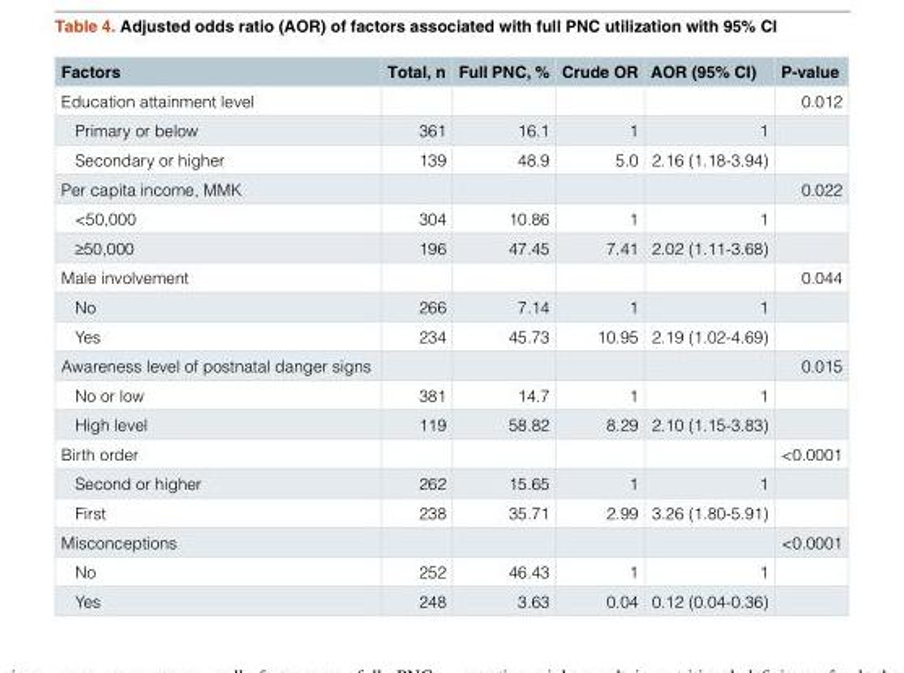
<table><thead><tr><td>Factors</td><td>Total, n</td><td>Full PNC, %</td><td>Crude OR</td><td>AOR (95% CI)</td><td>P-value</td></tr></thead><tbody><tr><td>Education attainment level</td><td></td><td></td><td></td><td></td><td>0.012</td></tr><tr><td>Primary or below</td><td>361</td><td>16.1</td><td>1</td><td>1</td><td></td></tr><tr><td>Secondary or higher</td><td>139</td><td>48.9</td><td>5.0</td><td>2.16 (1.18-3.94)</td><td></td></tr><tr><td>Per capita income, MMK</td><td></td><td></td><td></td><td></td><td>0.022</td></tr><tr><td>&lt;50,000</td><td>304</td><td>10.86</td><td>1</td><td>1</td><td></td></tr><tr><td>≥50,000</td><td>196</td><td>47.45</td><td>7.41</td><td>2.02 (1.11-3.68)</td><td></td></tr><tr><td>Male involvement</td><td></td><td></td><td></td><td></td><td>0.044</td></tr><tr><td>No</td><td>266</td><td>7.14</td><td>1</td><td>1</td><td></td></tr><tr><td>Yes</td><td>234</td><td>45.73</td><td>10.95</td><td>2.19 (1.02-4.69)</td><td></td></tr><tr><td>Awareness level of postnatal danger signs</td><td></td><td></td><td></td><td></td><td>0.015</td></tr><tr><td>No or low</td><td>381</td><td>14.7</td><td>1</td><td>1</td><td></td></tr><tr><td>High level</td><td>119</td><td>58.82</td><td>8.29</td><td>2.10 (1.15-3.83)</td><td></td></tr><tr><td>Birth order</td><td></td><td></td><td></td><td></td><td>&lt;0.0001</td></tr><tr><td>Second or higher</td><td>262</td><td>15.65</td><td>1</td><td>1</td><td></td></tr><tr><td>First</td><td>238</td><td>35.71</td><td>2.99</td><td>3.26 (1.80-5.91)</td><td></td></tr><tr><td>Misconceptions</td><td></td><td></td><td></td><td></td><td>&lt;0.0001</td></tr><tr><td>No</td><td>252</td><td>46.43</td><td>1</td><td>1</td><td></td></tr><tr><td>Yes</td><td>248</td><td>3.63</td><td>0.04</td><td>0.12 (0.04-0.36)</td><td></td></tr></tbody></table>